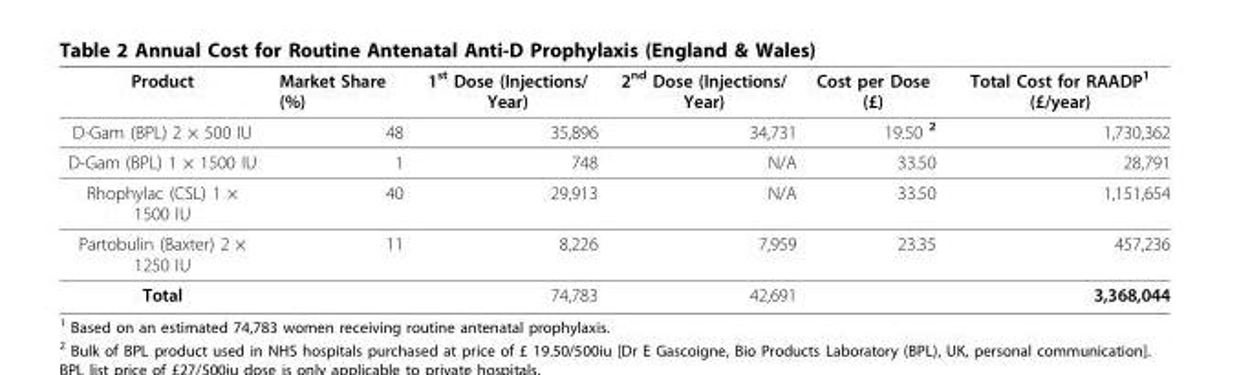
<table><thead><tr><td>Product</td><td>Market Share (%)</td><td>1<sup>st</sup> Dose (Injections/ Year)</td><td>2<sup>nd</sup> Dose (Injections/ Year)</td><td>Cost per Dose (£)</td><td>Total Cost for RAADP<sup>1</sup> (£/year)</td></tr></thead><tbody><tr><td>D-Gam (BPL) 2 × 500 IU</td><td>48</td><td>35,896</td><td>34,731</td><td>19.50 <sup>2</sup></td><td>1,730,362</td></tr><tr><td>D-Gam (BPL) 1 × 1500 IU</td><td>1</td><td>748</td><td>N/A</td><td>33.50</td><td>28,791</td></tr><tr><td>Rhophylac (CSL) 1 × 1500 IU</td><td>40</td><td>29,913</td><td>N/A</td><td>33.50</td><td>1,151,654</td></tr><tr><td>Partobulin (Baxter) 2 × 1250 IU</td><td>11</td><td>8,226</td><td>7,959</td><td>23.35</td><td>457,236</td></tr><tr><td>Total</td><td></td><td>74,783</td><td>42,691</td><td></td><td>3,368,044</td></tr></tbody></table>